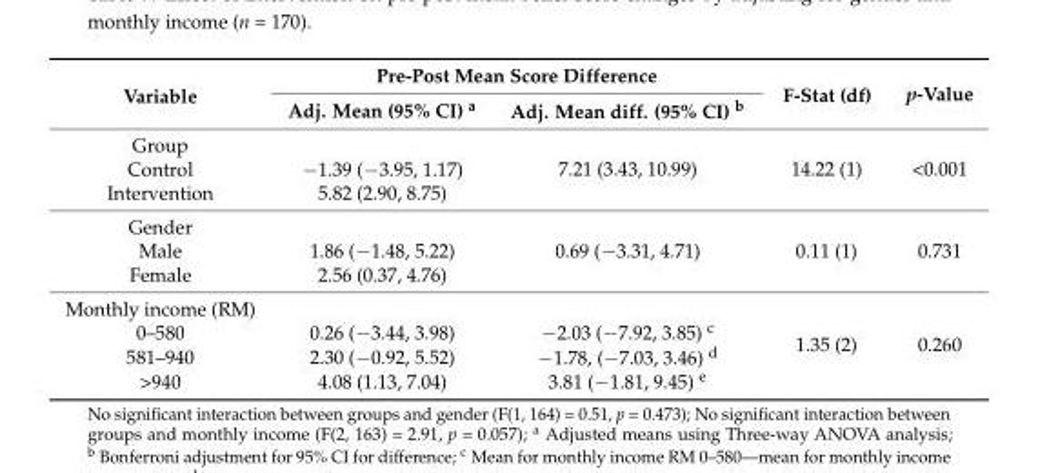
<table><thead><tr><td rowspan="2">Variable</td><td colspan="2">Pre-Post Mean Score Difference</td><td rowspan="2">F-Stat (df)</td><td rowspan="2">p-Value</td></tr><tr><td>Adj. Mean (95% CI) <sup>a</sup></td><td>Adj. Mean diff. (95% CI) <sup>b</sup></td></tr></thead><tbody><tr><td>Group Control Intervention</td><td>−1.39 (−3.95, 1.17) 5.82 (2.90, 8.75)</td><td>7.21 (3.43, 10.99)</td><td>14.22 (1)</td><td>&lt;0.001</td></tr><tr><td>Gender Male Female</td><td>1.86 (−1.48, 5.22) 2.56 (0.37, 4.76)</td><td>0.69 (−3.31, 4.71)</td><td>0.11 (1)</td><td>0.731</td></tr><tr><td>Monthly income (RM) 0–580 581–940 &gt;940</td><td>0.26 (−3.44, 3.98) 2.30 (−0.92, 5.52) 4.08 (1.13, 7.04)</td><td>−2.03 (−7.92, 3.85) <sup>c</sup> −1.78, (−7.03, 3.46) <sup>d</sup> 3.81 (−1.81, 9.45) <sup>e</sup></td><td>1.35 (2)</td><td>0.260</td></tr></tbody></table>